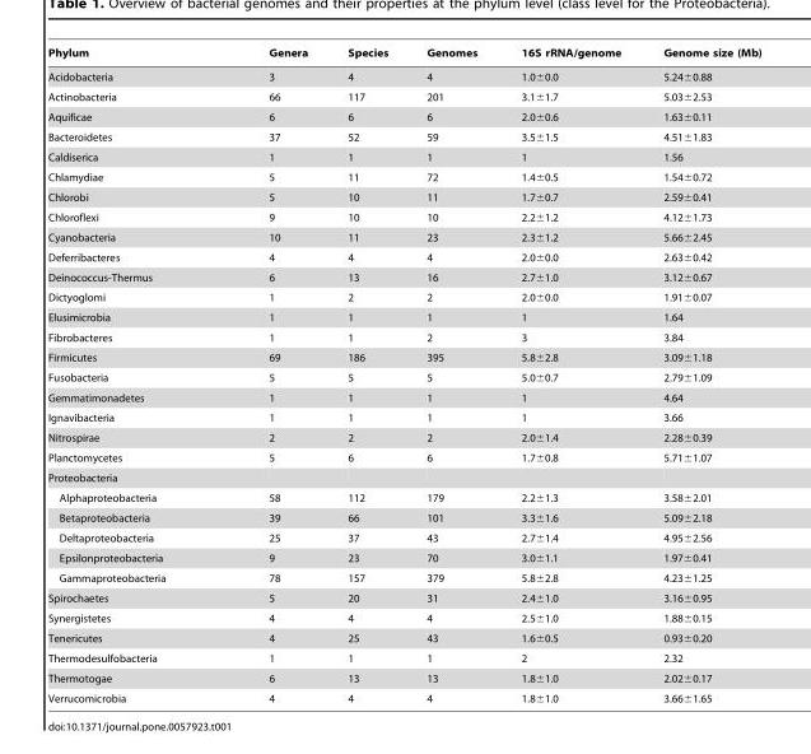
<table><thead><tr><td>Phylum</td><td>Genera</td><td>Species</td><td>Genomes</td><td>16S rRNA/genome</td><td>Genome size (Mb)</td></tr></thead><tbody><tr><td>Acidobacteria</td><td>3</td><td>4</td><td>4</td><td>1.0±0.0</td><td>5.24±0.88</td></tr><tr><td>Actinobacteria</td><td>66</td><td>117</td><td>201</td><td>3.1±1.7</td><td>5.03±2.53</td></tr><tr><td>Aquificae</td><td>6</td><td>6</td><td>6</td><td>2.0±0.6</td><td>1.63±0.11</td></tr><tr><td>Bacteroidetes</td><td>37</td><td>52</td><td>59</td><td>3.5±1.5</td><td>4.51±1.83</td></tr><tr><td>Caldiserica</td><td>1</td><td>1</td><td>1</td><td>1</td><td>1.56</td></tr><tr><td>Chlamydiae</td><td>5</td><td>11</td><td>72</td><td>1.4±0.5</td><td>1.54±0.72</td></tr><tr><td>Chlorobi</td><td>5</td><td>10</td><td>11</td><td>1.7±0.7</td><td>2.59±0.41</td></tr><tr><td>Chloroflexi</td><td>9</td><td>10</td><td>10</td><td>2.2±1.2</td><td>4.12±1.73</td></tr><tr><td>Cyanobacteria</td><td>10</td><td>11</td><td>23</td><td>2.3±1.2</td><td>5.66±2.45</td></tr><tr><td>Deferribacteres</td><td>4</td><td>4</td><td>4</td><td>2.0±0.0</td><td>2.63±0.42</td></tr><tr><td>Deinococcus-Thermus</td><td>6</td><td>13</td><td>16</td><td>2.7±1.0</td><td>3.12±0.67</td></tr><tr><td>Dictyoglomi</td><td>1</td><td>2</td><td>2</td><td>2.0±0.0</td><td>1.91±0.07</td></tr><tr><td>Elusimicrobia</td><td>1</td><td>1</td><td>1</td><td>1</td><td>1.64</td></tr><tr><td>Fibrobacteres</td><td>1</td><td>1</td><td>2</td><td>3</td><td>3.84</td></tr><tr><td>Firmicutes</td><td>69</td><td>186</td><td>395</td><td>5.8±2.8</td><td>3.09±1.18</td></tr><tr><td>Fusobacteria</td><td>5</td><td>5</td><td>5</td><td>5.0±0.7</td><td>2.79±1.09</td></tr><tr><td>Gemmatimonadetes</td><td>1</td><td>1</td><td>1</td><td>1</td><td>4.64</td></tr><tr><td>Ignavibacteria</td><td>1</td><td>1</td><td>1</td><td>1</td><td>3.66</td></tr><tr><td>Nitrospirae</td><td>2</td><td>2</td><td>2</td><td>2.0±1.4</td><td>2.28±0.39</td></tr><tr><td>Planctomycetes</td><td>5</td><td>6</td><td>6</td><td>1.7±0.8</td><td>5.71±1.07</td></tr><tr><td colspan="6">Proteobacteria</td></tr><tr><td>Alphaproteobacteria</td><td>58</td><td>112</td><td>179</td><td>2.2±1.3</td><td>3.58±2.01</td></tr><tr><td>Betaproteobacteria</td><td>39</td><td>66</td><td>101</td><td>3.3±1.6</td><td>5.09±2.18</td></tr><tr><td>Deltaproteobacteria</td><td>25</td><td>37</td><td>43</td><td>2.7±1.4</td><td>4.95±2.56</td></tr><tr><td>Epsilonproteobacteria</td><td>9</td><td>23</td><td>70</td><td>3.0±1.1</td><td>1.97±0.41</td></tr><tr><td>Gammaproteobacteria</td><td>78</td><td>157</td><td>379</td><td>5.8±2.8</td><td>4.23±1.25</td></tr><tr><td>Spirochaetes</td><td>5</td><td>20</td><td>31</td><td>2.4±1.0</td><td>3.16±0.95</td></tr><tr><td>Synergistetes</td><td>4</td><td>4</td><td>4</td><td>2.5±1.0</td><td>1.88±0.15</td></tr><tr><td>Tenericutes</td><td>4</td><td>25</td><td>43</td><td>1.6±0.5</td><td>0.93±0.20</td></tr><tr><td>Thermodesulfobacteria</td><td>1</td><td>1</td><td>1</td><td>2</td><td>2.32</td></tr><tr><td>Thermotogae</td><td>6</td><td>13</td><td>13</td><td>1.8±1.0</td><td>2.02±0.17</td></tr><tr><td>Verrucomicrobia</td><td>4</td><td>4</td><td>4</td><td>1.8±1.0</td><td>3.66±1.65</td></tr></tbody></table>